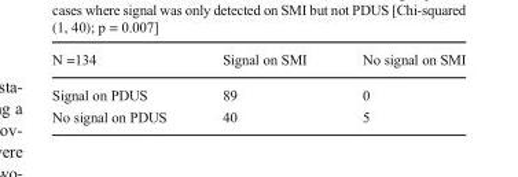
<table><thead><tr><td>N =134</td><td>Signal on SMI</td><td>No signal on SMI</td></tr></thead><tbody><tr><td>Signal on PDUS</td><td>89</td><td>0</td></tr><tr><td>No signal on PDUS</td><td>40</td><td>5</td></tr></tbody></table>